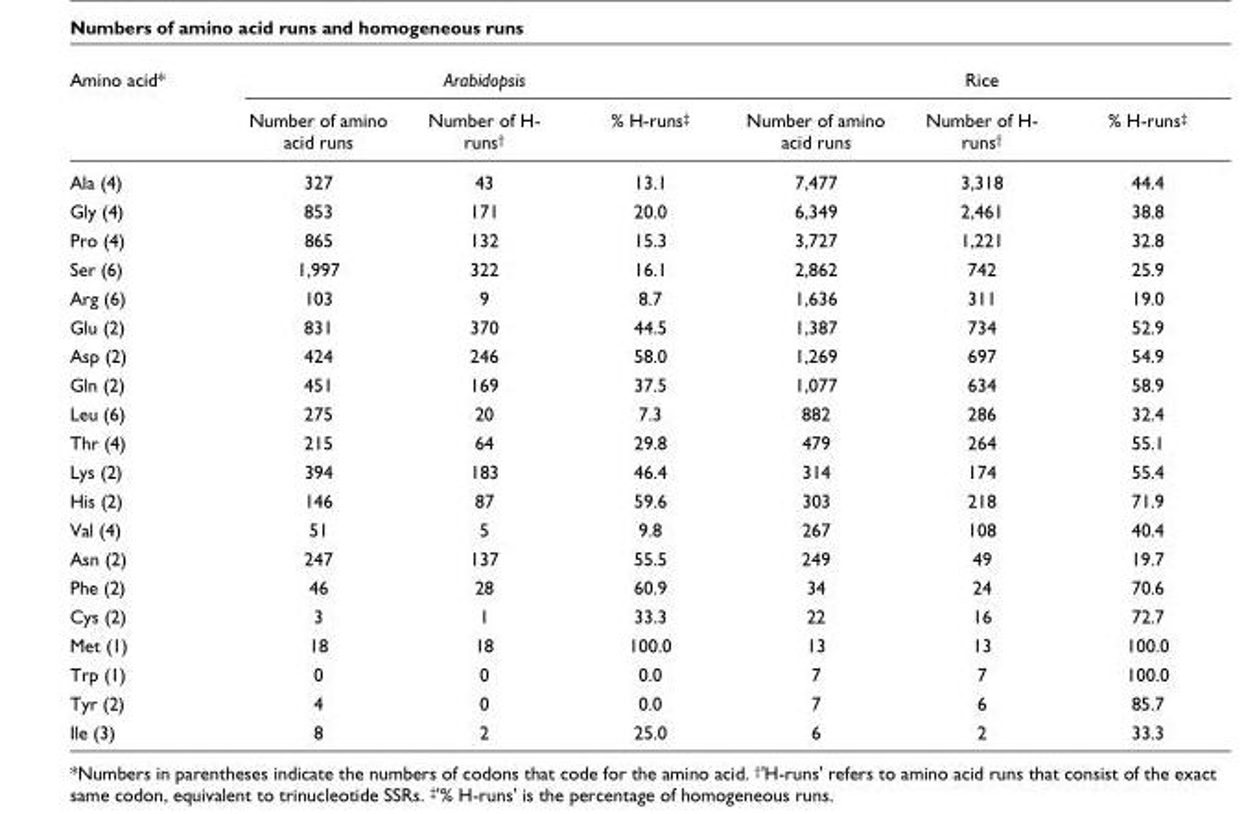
<table><thead><tr><td rowspan="2">Amino acid*</td><td colspan="3">Arabidopsis</td><td colspan="3">Rice</td></tr><tr><td>Number of amino acid runs</td><td>Number of H- runs†</td><td>% H-runs‡</td><td>Number of amino acid runs</td><td>Number of H- runs†</td><td>% H-runs‡</td></tr></thead><tbody><tr><td>Ala (4)</td><td>327</td><td>43</td><td>13.1</td><td>7,477</td><td>3,318</td><td>44.4</td></tr><tr><td>Gly (4)</td><td>853</td><td>171</td><td>20.0</td><td>6,349</td><td>2,461</td><td>38.8</td></tr><tr><td>Pro (4)</td><td>865</td><td>132</td><td>15.3</td><td>3,727</td><td>1,221</td><td>32.8</td></tr><tr><td>Ser (6)</td><td>1,997</td><td>322</td><td>16.1</td><td>2,862</td><td>742</td><td>25.9</td></tr><tr><td>Arg (6)</td><td>103</td><td>9</td><td>8.7</td><td>1,636</td><td>311</td><td>19.0</td></tr><tr><td>Glu (2)</td><td>831</td><td>370</td><td>44.5</td><td>1,387</td><td>734</td><td>52.9</td></tr><tr><td>Asp (2)</td><td>424</td><td>246</td><td>58.0</td><td>1,269</td><td>697</td><td>54.9</td></tr><tr><td>Gln (2)</td><td>451</td><td>169</td><td>37.5</td><td>1,077</td><td>634</td><td>58.9</td></tr><tr><td>Leu (6)</td><td>275</td><td>20</td><td>7.3</td><td>882</td><td>286</td><td>32.4</td></tr><tr><td>Thr (4)</td><td>215</td><td>64</td><td>29.8</td><td>479</td><td>264</td><td>55.1</td></tr><tr><td>Lys (2)</td><td>394</td><td>183</td><td>46.4</td><td>314</td><td>174</td><td>55.4</td></tr><tr><td>His (2)</td><td>146</td><td>87</td><td>59.6</td><td>303</td><td>218</td><td>71.9</td></tr><tr><td>Val (4)</td><td>51</td><td>5</td><td>9.8</td><td>267</td><td>108</td><td>40.4</td></tr><tr><td>Asn (2)</td><td>247</td><td>137</td><td>55.5</td><td>249</td><td>49</td><td>19.7</td></tr><tr><td>Phe (2)</td><td>46</td><td>28</td><td>60.9</td><td>34</td><td>24</td><td>70.6</td></tr><tr><td>Cys (2)</td><td>3</td><td>1</td><td>33.3</td><td>22</td><td>16</td><td>72.7</td></tr><tr><td>Met (1)</td><td>18</td><td>18</td><td>100.0</td><td>13</td><td>13</td><td>100.0</td></tr><tr><td>Trp (1)</td><td>0</td><td>0</td><td>0.0</td><td>7</td><td>7</td><td>100.0</td></tr><tr><td>Tyr (2)</td><td>4</td><td>0</td><td>0.0</td><td>7</td><td>6</td><td>85.7</td></tr><tr><td>Ile (3)</td><td>8</td><td>2</td><td>25.0</td><td>6</td><td>2</td><td>33.3</td></tr></tbody></table>